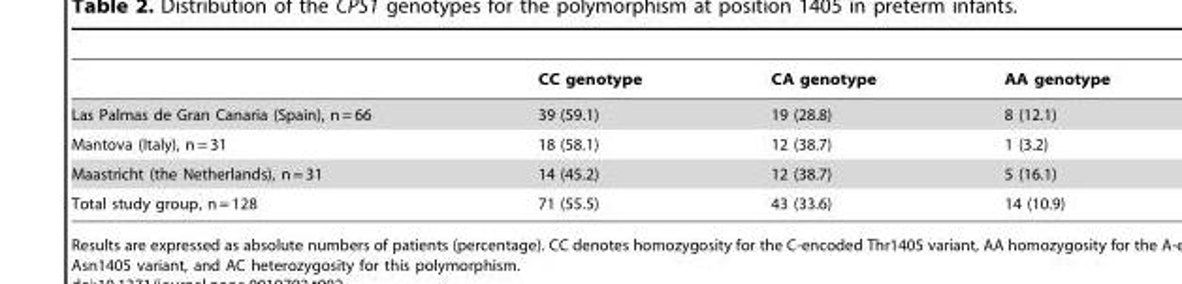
<table><thead><tr><td></td><td>CC genotype</td><td>CA genotype</td><td>AA genotype</td></tr></thead><tbody><tr><td>Las Palmas de Gran Canaria (Spain), n = 66</td><td>39 (59.1)</td><td>19 (28.8)</td><td>8 (12.1)</td></tr><tr><td>Mantova (Italy), n = 31</td><td>18 (58.1)</td><td>12 (38.7)</td><td>1 (3.2)</td></tr><tr><td>Maastricht (the Netherlands), n = 31</td><td>14 (45.2)</td><td>12 (38.7)</td><td>5 (16.1)</td></tr><tr><td>Total study group, n = 128</td><td>71 (55.5)</td><td>43 (33.6)</td><td>14 (10.9)</td></tr></tbody></table>